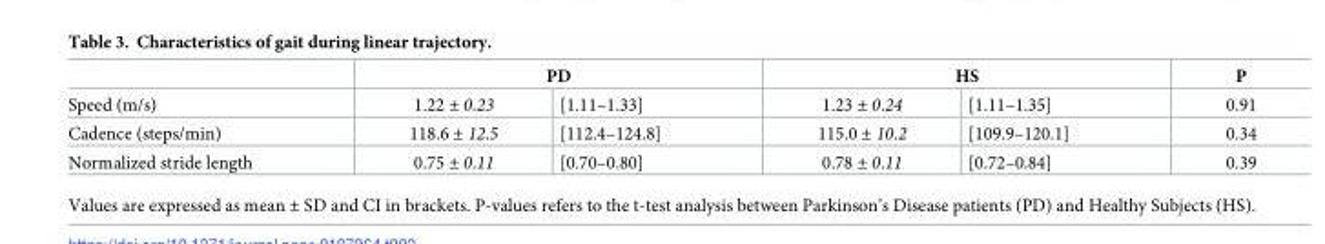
<table><thead><tr><td rowspan="2">Speed (m/s)</td><td colspan="2">PD</td><td colspan="2">HS</td><td rowspan="2">P 0.91</td></tr><tr><td>1.22 ± 0.23</td><td>[1.11–1.33]</td><td>1.23 ± 0.24</td><td>[1.11–1.35]</td></tr></thead><tbody><tr><td>Cadence (steps/min)</td><td>118.6 ± 12.5</td><td>[112.4–124.8]</td><td>115.0 ± 10.2</td><td>[109.9–120.1]</td><td>0.34</td></tr><tr><td>Normalized stride length</td><td>0.75 ± 0.11</td><td>[0.70–0.80]</td><td>0.78 ± 0.11</td><td>[0.72–0.84]</td><td>0.39</td></tr></tbody></table>